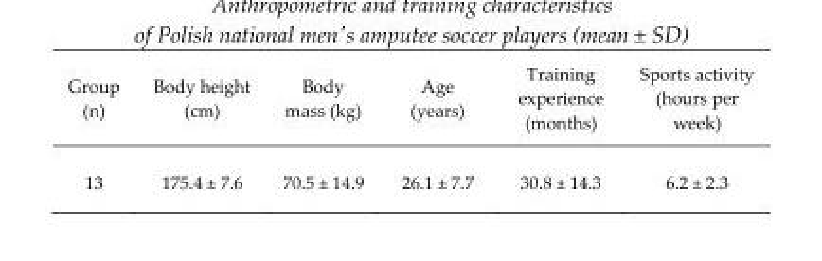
<table><thead><tr><td>Group (n)</td><td>Body height (cm)</td><td>Body mass (kg)</td><td>Age (years)</td><td>Training experience (months)</td><td>Sports activity (hours per week)</td></tr></thead><tbody><tr><td>13</td><td>175.4 ± 7.6</td><td>70.5 ± 14.9</td><td>26.1 ± 7.7</td><td>30.8 ± 14.3</td><td>6.2 ± 2.3</td></tr></tbody></table>